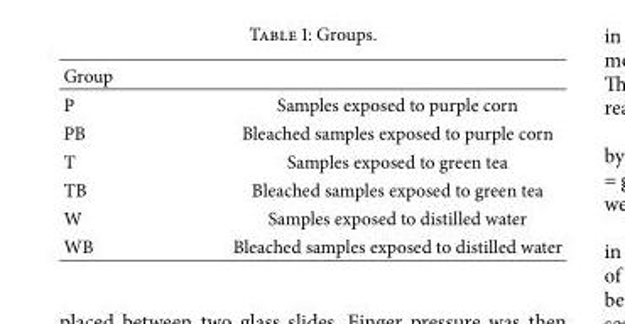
<table><thead><tr><td>Group</td><td></td></tr></thead><tbody><tr><td>P</td><td>Samples exposed to purple corn</td></tr><tr><td>PB</td><td>Bleached samples exposed to purple corn</td></tr><tr><td>T</td><td>Samples exposed to green tea</td></tr><tr><td>TB</td><td>Bleached samples exposed to green tea</td></tr><tr><td>W</td><td>Samples exposed to distilled water</td></tr><tr><td>WB</td><td>Bleached samples exposed to distilled water</td></tr></tbody></table>